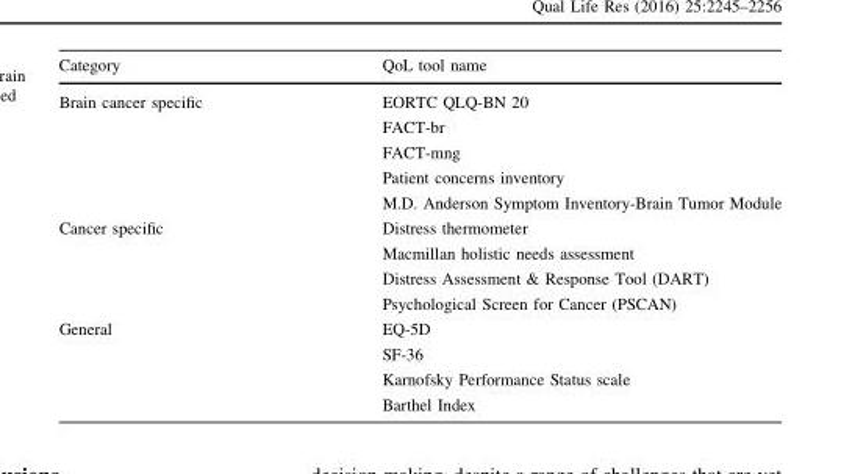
<table><thead><tr><td>Category</td><td>QoL tool name</td></tr></thead><tbody><tr><td rowspan="5">Brain cancer specific</td><td>EORTC QLQ-BN 20</td></tr><tr><td>FACT-br</td></tr><tr><td>FACT-mng</td></tr><tr><td>Patient concerns inventory</td></tr><tr><td>M.D. Anderson Symptom Inventory-Brain Tumor Module</td></tr><tr><td rowspan="4">Cancer specific</td><td>Distress thermometer</td></tr><tr><td>Macmillan holistic needs assessment</td></tr><tr><td>Distress Assessment &amp; Response Tool (DART)</td></tr><tr><td>Psychological Screen for Cancer (PSCAN)</td></tr><tr><td rowspan="4">General</td><td>EQ-5D</td></tr><tr><td>SF-36</td></tr><tr><td>Karnofsky Performance Status scale</td></tr><tr><td>Barthel Index</td></tr></tbody></table>